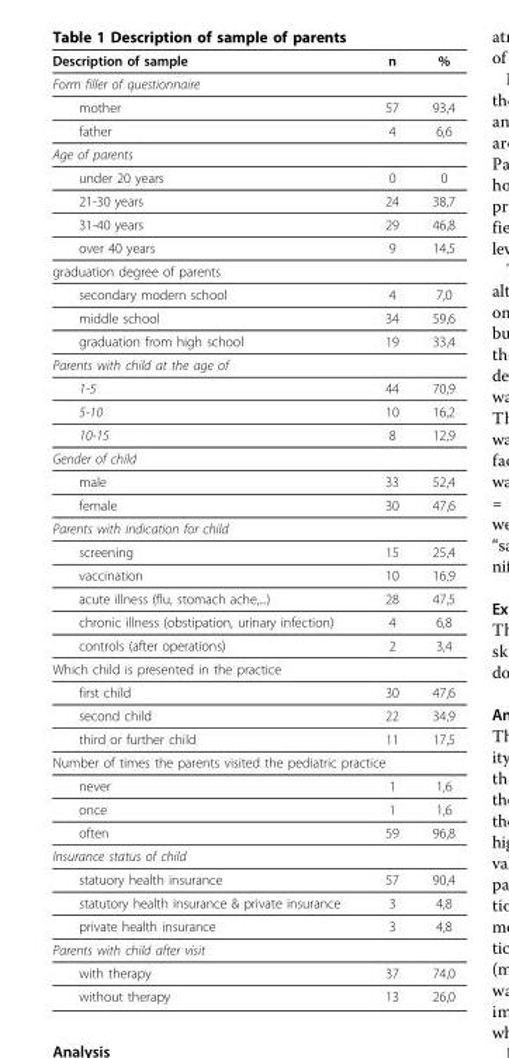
<table><thead><tr><td>Description of sample</td><td>n</td><td>%</td></tr></thead><tbody><tr><td colspan="3">Form filler of questionnaire</td></tr><tr><td>mother</td><td>57</td><td>93,4</td></tr><tr><td>father</td><td>4</td><td>6,6</td></tr><tr><td colspan="3">Age of parents</td></tr><tr><td>under 20 years</td><td>0</td><td>0</td></tr><tr><td>21-30 years</td><td>24</td><td>38,7</td></tr><tr><td>31-40 years</td><td>29</td><td>46,8</td></tr><tr><td>over 40 years</td><td>9</td><td>14,5</td></tr><tr><td colspan="3">graduation degree of parents</td></tr><tr><td>secondary modern school</td><td>4</td><td>7,0</td></tr><tr><td>middle school</td><td>34</td><td>59,6</td></tr><tr><td>graduation from high school</td><td>19</td><td>33,4</td></tr><tr><td colspan="3">Parents with child at the age of</td></tr><tr><td>1-5</td><td>44</td><td>70,9</td></tr><tr><td>5-10</td><td>10</td><td>16,2</td></tr><tr><td>10-15</td><td>8</td><td>12,9</td></tr><tr><td colspan="3">Gender of child</td></tr><tr><td>male</td><td>33</td><td>52,4</td></tr><tr><td>female</td><td>30</td><td>47,6</td></tr><tr><td colspan="3">Parents with indication for child</td></tr><tr><td>screening</td><td>15</td><td>25,4</td></tr><tr><td>vaccination</td><td>10</td><td>16,9</td></tr><tr><td>acute illness (flu, stomach ache,...)</td><td>28</td><td>47,5</td></tr><tr><td>chronic illness (obstipation, urinary infection)</td><td>4</td><td>6,8</td></tr><tr><td>controls (after operations)</td><td>2</td><td>3,4</td></tr><tr><td colspan="3">Which child is presented in the practice</td></tr><tr><td>first child</td><td>30</td><td>47,6</td></tr><tr><td>second child</td><td>22</td><td>34,9</td></tr><tr><td>third or further child</td><td>11</td><td>17,5</td></tr><tr><td colspan="3">Number of times the parents visited the pediatric practice</td></tr><tr><td>never</td><td>1</td><td>1,6</td></tr><tr><td>once</td><td>1</td><td>1,6</td></tr><tr><td>often</td><td>59</td><td>96,8</td></tr><tr><td colspan="3">Insurance status of child</td></tr><tr><td>statuory health insurance</td><td>57</td><td>90,4</td></tr><tr><td>statutory health insurance &amp; private insurance</td><td>3</td><td>4,8</td></tr><tr><td>private health insurance</td><td>3</td><td>4,8</td></tr><tr><td colspan="3">Parents with child after visit</td></tr><tr><td>with therapy</td><td>37</td><td>74,0</td></tr><tr><td>without therapy</td><td>13</td><td>26,0</td></tr></tbody></table>